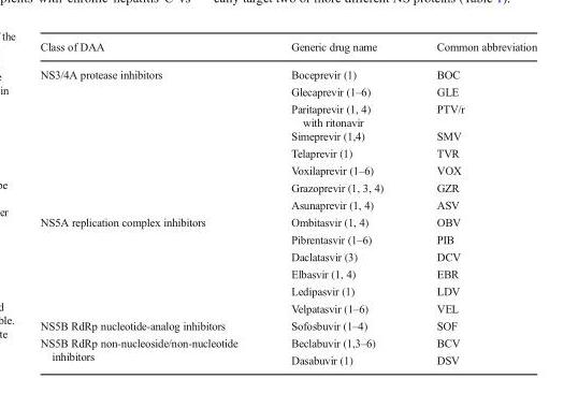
<table><thead><tr><td>Class of DAA</td><td>Generic drug name</td><td>Common abbreviation</td></tr></thead><tbody><tr><td rowspan="8">NS3/4A protease inhibitors</td><td>Boceprevir (1)</td><td>BOC</td></tr><tr><td>Glecaprevir (1–6)</td><td>GLE</td></tr><tr><td>Paritaprevir (1, 4) with ritonavir</td><td>PTV/r</td></tr><tr><td>Simeprevir (1,4)</td><td>SMV</td></tr><tr><td>Telaprevir (1)</td><td>TVR</td></tr><tr><td>Voxilaprevir (1–6)</td><td>VOX</td></tr><tr><td>Grazoprevir (1, 3, 4)</td><td>GZR</td></tr><tr><td>Asunaprevir (1, 4)</td><td>ASV</td></tr><tr><td rowspan="6">NS5A replication complex inhibitors</td><td>Ombitasvir (1, 4)</td><td>OBV</td></tr><tr><td>Pibrentasvir (1–6)</td><td>PIB</td></tr><tr><td>Daclatasvir (3)</td><td>DCV</td></tr><tr><td>Elbasvir (1, 4)</td><td>EBR</td></tr><tr><td>Ledipasvir (1)</td><td>LDV</td></tr><tr><td>Velpatasvir (1–6)</td><td>VEL</td></tr><tr><td>NS5B RdRp nucleotide-analog inhibitors</td><td>Sofosbuvir (1–4)</td><td>SOF</td></tr><tr><td rowspan="2">NS5B RdRp non-nucleoside/non-nucleotide inhibitors</td><td>Beclabuvir (1,3–6)</td><td>BCV</td></tr><tr><td>Dasabuvir (1)</td><td>DSV</td></tr></tbody></table>